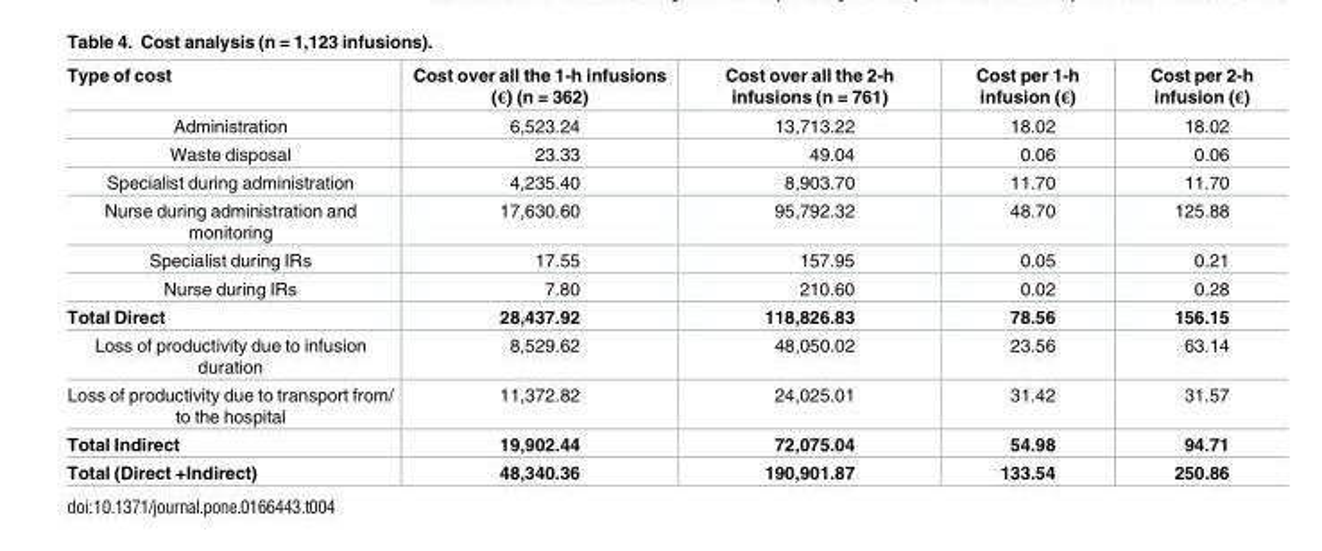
<table><thead><tr><td>Type of cost</td><td>Cost over all the 1-h infusions (€) (n = 362)</td><td>Cost over all the 2-h infusions (n = 761)</td><td>Cost per 1-h infusion (€)</td><td>Cost per 2-h infusion (€)</td></tr></thead><tbody><tr><td>Administration</td><td>6,523.24</td><td>13,713.22</td><td>18.02</td><td>18.02</td></tr><tr><td>Waste disposal</td><td>23.33</td><td>49.04</td><td>0.06</td><td>0.06</td></tr><tr><td>Specialist during administration</td><td>4,235.40</td><td>8,903.70</td><td>11.70</td><td>11.70</td></tr><tr><td>Nurse during administration and monitoring</td><td>17,630.60</td><td>95,792.32</td><td>48.70</td><td>125.88</td></tr><tr><td>Specialist during IRs</td><td>17.55</td><td>157.95</td><td>0.05</td><td>0.21</td></tr><tr><td>Nurse during IRs</td><td>7.80</td><td>210.60</td><td>0.02</td><td>0.28</td></tr><tr><td>Total Direct</td><td>28,437.92</td><td>118,826.83</td><td>78.56</td><td>156.15</td></tr><tr><td>Loss of productivity due to infusion duration</td><td>8,529.62</td><td>48,050.02</td><td>23.56</td><td>63.14</td></tr><tr><td>Loss of productivity due to transport from/ to the hospital</td><td>11,372.82</td><td>24,025.01</td><td>31.42</td><td>31.57</td></tr><tr><td>Total Indirect</td><td>19,902.44</td><td>72,075.04</td><td>54.98</td><td>94.71</td></tr><tr><td>Total (Direct +Indirect)</td><td>48,340.36</td><td>190,901.87</td><td>133.54</td><td>250.86</td></tr></tbody></table>